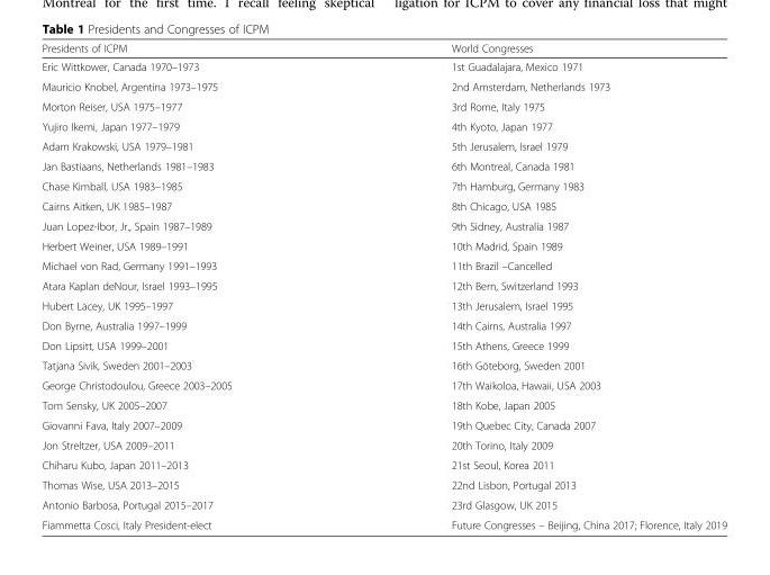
<table><thead><tr><td>Presidents of ICPM</td><td>World Congresses</td></tr></thead><tbody><tr><td>Eric Wittkower, Canada 1970–1973</td><td>1st Guadalajara, Mexico 1971</td></tr><tr><td>Mauricio Knobel, Argentina 1973–1975</td><td>2nd Amsterdam, Netherlands 1973</td></tr><tr><td>Morton Reiser, USA 1975–1977</td><td>3rd Rome, Italy 1975</td></tr><tr><td>Yujiro Ikemi, Japan 1977–1979</td><td>4th Kyoto, Japan 1977</td></tr><tr><td>Adam Krakowski, USA 1979–1981</td><td>5th Jerusalem, Israel 1979</td></tr><tr><td>Jan Bastiaans, Netherlands 1981–1983</td><td>6th Montreal, Canada 1981</td></tr><tr><td>Chase Kimball, USA 1983–1985</td><td>7th Hamburg, Germany 1983</td></tr><tr><td>Cairns Aitken, UK 1985–1987</td><td>8th Chicago, USA 1985</td></tr><tr><td>Juan Lopez-Ibor, Jr., Spain 1987–1989</td><td>9th Sidney, Australia 1987</td></tr><tr><td>Herbert Weiner, USA 1989–1991</td><td>10th Madrid, Spain 1989</td></tr><tr><td>Michael von Rad, Germany 1991–1993</td><td>11th Brazil –Cancelled</td></tr><tr><td>Atara Kaplan deNour, Israel 1993–1995</td><td>12th Bern, Switzerland 1993</td></tr><tr><td>Hubert Lacey, UK 1995–1997</td><td>13th Jerusalem, Israel 1995</td></tr><tr><td>Don Byrne, Australia 1997–1999</td><td>14th Cairns, Australia 1997</td></tr><tr><td>Don Lipsitt, USA 1999–2001</td><td>15th Athens, Greece 1999</td></tr><tr><td>Tatjana Sivik, Sweden 2001–2003</td><td>16th Göteborg, Sweden 2001</td></tr><tr><td>George Christodoulou, Greece 2003–2005</td><td>17th Waikoloa, Hawaii, USA 2003</td></tr><tr><td>Tom Sensky, UK 2005–2007</td><td>18th Kobe, Japan 2005</td></tr><tr><td>Giovanni Fava, Italy 2007–2009</td><td>19th Quebec City, Canada 2007</td></tr><tr><td>Jon Streltzer, USA 2009–2011</td><td>20th Torino, Italy 2009</td></tr><tr><td>Chiharu Kubo, Japan 2011–2013</td><td>21st Seoul, Korea 2011</td></tr><tr><td>Thomas Wise, USA 2013–2015</td><td>22nd Lisbon, Portugal 2013</td></tr><tr><td>Antonio Barbosa, Portugal 2015–2017</td><td>23rd Glasgow, UK 2015</td></tr><tr><td>Fiammetta Cosci, Italy President-elect</td><td>Future Congresses – Beijing, China 2017; Florence, Italy 2019</td></tr></tbody></table>